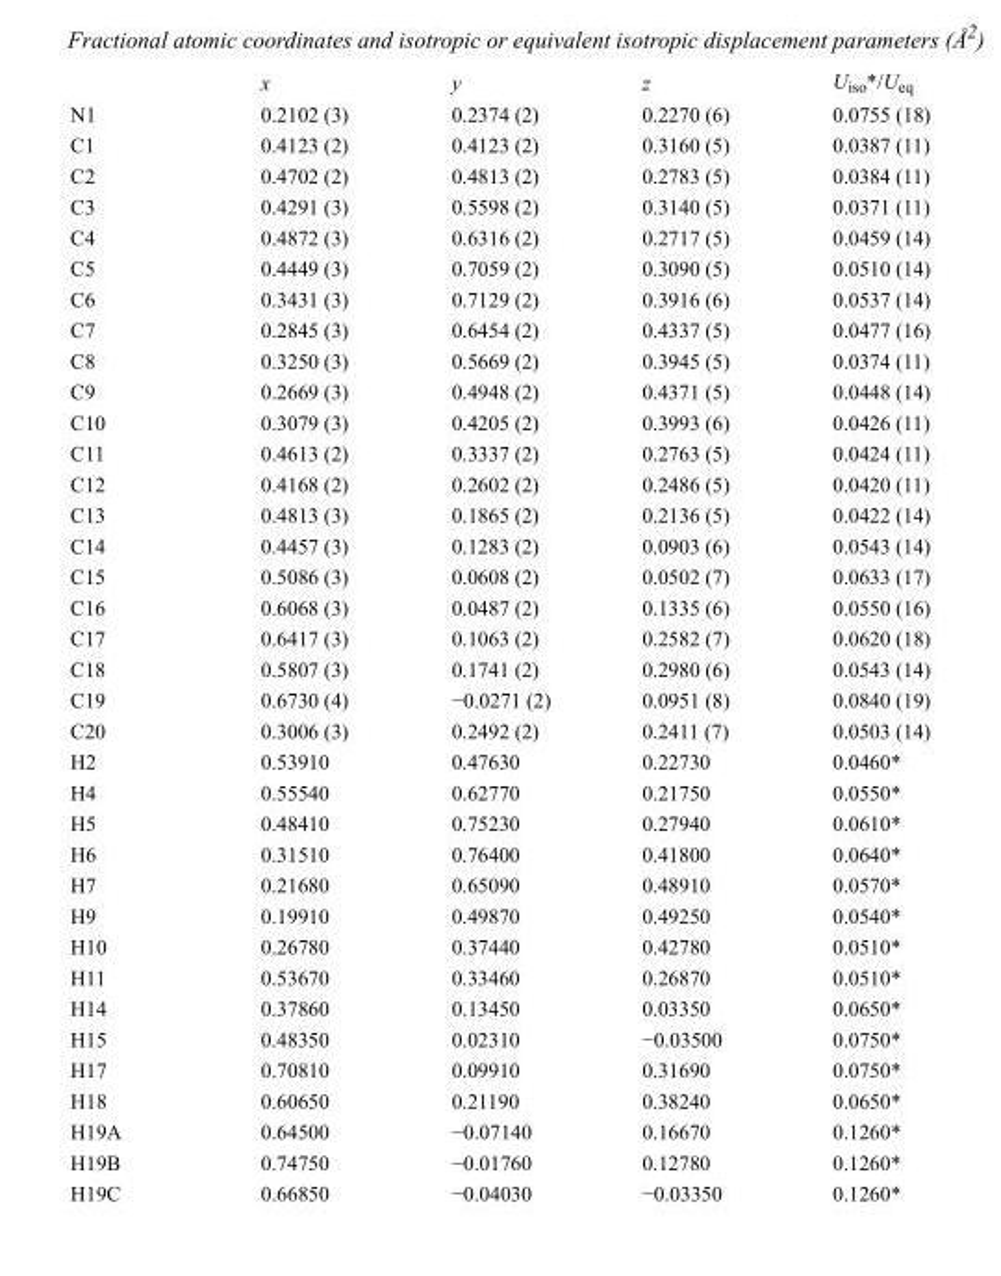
<table><thead><tr><td></td><td>x</td><td>y</td><td>z</td><td>U<sub>iso</sub>*/U<sub>eq</sub></td></tr></thead><tbody><tr><td>N1</td><td>0.2102 (3)</td><td>0.2374 (2)</td><td>0.2270 (6)</td><td>0.0755 (18)</td></tr><tr><td>C1</td><td>0.4123 (2)</td><td>0.4123 (2)</td><td>0.3160 (5)</td><td>0.0387 (11)</td></tr><tr><td>C2</td><td>0.4702 (2)</td><td>0.4813 (2)</td><td>0.2783 (5)</td><td>0.0384 (11)</td></tr><tr><td>C3</td><td>0.4291 (3)</td><td>0.5598 (2)</td><td>0.3140 (5)</td><td>0.0371 (11)</td></tr><tr><td>C4</td><td>0.4872 (3)</td><td>0.6316 (2)</td><td>0.2717 (5)</td><td>0.0459 (14)</td></tr><tr><td>C5</td><td>0.4449 (3)</td><td>0.7059 (2)</td><td>0.3090 (5)</td><td>0.0510 (14)</td></tr><tr><td>C6</td><td>0.3431 (3)</td><td>0.7129 (2)</td><td>0.3916 (6)</td><td>0.0537 (14)</td></tr><tr><td>C7</td><td>0.2845 (3)</td><td>0.6454 (2)</td><td>0.4337 (5)</td><td>0.0477 (16)</td></tr><tr><td>C8</td><td>0.3250 (3)</td><td>0.5669 (2)</td><td>0.3945 (5)</td><td>0.0374 (11)</td></tr><tr><td>C9</td><td>0.2669 (3)</td><td>0.4948 (2)</td><td>0.4371 (5)</td><td>0.0448 (14)</td></tr><tr><td>C10</td><td>0.3079 (3)</td><td>0.4205 (2)</td><td>0.3993 (6)</td><td>0.0426 (11)</td></tr><tr><td>C11</td><td>0.4613 (2)</td><td>0.3337 (2)</td><td>0.2763 (5)</td><td>0.0424 (11)</td></tr><tr><td>C12</td><td>0.4168 (2)</td><td>0.2602 (2)</td><td>0.2486 (5)</td><td>0.0420 (11)</td></tr><tr><td>C13</td><td>0.4813 (3)</td><td>0.1865 (2)</td><td>0.2136 (5)</td><td>0.0422 (14)</td></tr><tr><td>C14</td><td>0.4457 (3)</td><td>0.1283 (2)</td><td>0.0903 (6)</td><td>0.0543 (14)</td></tr><tr><td>C15</td><td>0.5086 (3)</td><td>0.0608 (2)</td><td>0.0502 (7)</td><td>0.0633 (17)</td></tr><tr><td>C16</td><td>0.6068 (3)</td><td>0.0487 (2)</td><td>0.1335 (6)</td><td>0.0550 (16)</td></tr><tr><td>C17</td><td>0.6417 (3)</td><td>0.1063 (2)</td><td>0.2582 (7)</td><td>0.0620 (18)</td></tr><tr><td>C18</td><td>0.5807 (3)</td><td>0.1741 (2)</td><td>0.2980 (6)</td><td>0.0543 (14)</td></tr><tr><td>C19</td><td>0.6730 (4)</td><td>−0.0271 (2)</td><td>0.0951 (8)</td><td>0.0840 (19)</td></tr><tr><td>C20</td><td>0.3006 (3)</td><td>0.2492 (2)</td><td>0.2411 (7)</td><td>0.0503 (14)</td></tr><tr><td>H2</td><td>0.53910</td><td>0.47630</td><td>0.22730</td><td>0.0460*</td></tr><tr><td>H4</td><td>0.55540</td><td>0.62770</td><td>0.21750</td><td>0.0550*</td></tr><tr><td>H5</td><td>0.48410</td><td>0.75230</td><td>0.27940</td><td>0.0610*</td></tr><tr><td>H6</td><td>0.31510</td><td>0.76400</td><td>0.41800</td><td>0.0640*</td></tr><tr><td>H7</td><td>0.21680</td><td>0.65090</td><td>0.48910</td><td>0.0570*</td></tr><tr><td>H9</td><td>0.19910</td><td>0.49870</td><td>0.49250</td><td>0.0540*</td></tr><tr><td>H10</td><td>0.26780</td><td>0.37440</td><td>0.42780</td><td>0.0510*</td></tr><tr><td>H11</td><td>0.53670</td><td>0.33460</td><td>0.26870</td><td>0.0510*</td></tr><tr><td>H14</td><td>0.37860</td><td>0.13450</td><td>0.03350</td><td>0.0650*</td></tr><tr><td>H15</td><td>0.48350</td><td>0.02310</td><td>−0.03500</td><td>0.0750*</td></tr><tr><td>H17</td><td>0.70810</td><td>0.09910</td><td>0.31690</td><td>0.0750*</td></tr><tr><td>H18</td><td>0.60650</td><td>0.21190</td><td>0.38240</td><td>0.0650*</td></tr><tr><td>H19A</td><td>0.64500</td><td>−0.07140</td><td>0.16670</td><td>0.1260*</td></tr><tr><td>H19B</td><td>0.74750</td><td>−0.01760</td><td>0.12780</td><td>0.1260*</td></tr><tr><td>H19C</td><td>0.66850</td><td>−0.04030</td><td>−0.03350</td><td>0.1260*</td></tr></tbody></table>